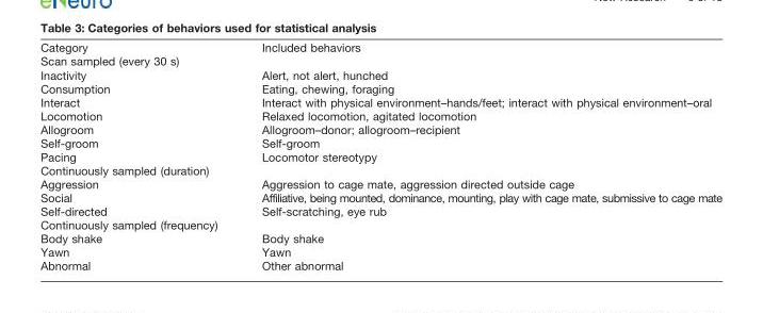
<table><thead><tr><td>Category</td><td>Included behaviors</td></tr></thead><tbody><tr><td colspan="2">Scan sampled (every 30 s)</td></tr><tr><td>Inactivity</td><td>Alert, not alert, hunched</td></tr><tr><td>Consumption</td><td>Eating, chewing, foraging</td></tr><tr><td>Interact</td><td>Interact with physical environment–hands/feet; interact with physical environment–oral</td></tr><tr><td>Locomotion</td><td>Relaxed locomotion, agitated locomotion</td></tr><tr><td>Allogroom</td><td>Allogroom–donor; allogroom–recipient</td></tr><tr><td>Self-groom</td><td>Self-groom</td></tr><tr><td>Pacing</td><td>Locomotor stereotypy</td></tr><tr><td colspan="2">Continuously sampled (duration)</td></tr><tr><td>Aggression</td><td>Aggression to cage mate, aggression directed outside cage</td></tr><tr><td>Social</td><td>Affiliative, being mounted, dominance, mounting, play with cage mate, submissive to cage mate</td></tr><tr><td>Self-directed</td><td>Self-scratching, eye rub</td></tr><tr><td colspan="2">Continuously sampled (frequency)</td></tr><tr><td>Body shake</td><td>Body shake</td></tr><tr><td>Yawn</td><td>Yawn</td></tr><tr><td>Abnormal</td><td>Other abnormal</td></tr></tbody></table>